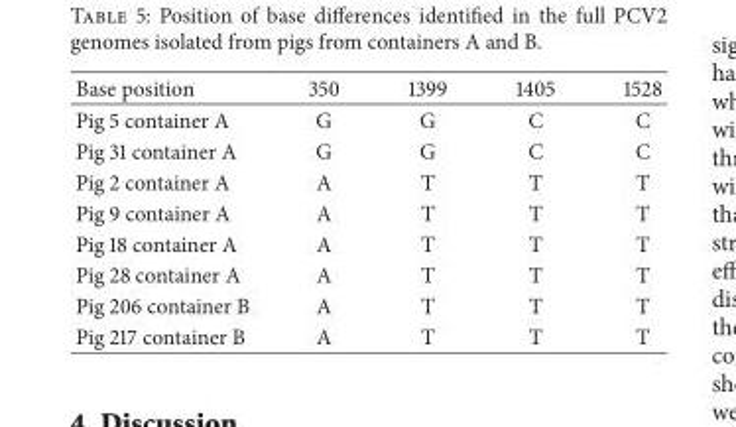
<table><thead><tr><td>Base position</td><td>350</td><td>1399</td><td>1405</td><td>1528</td></tr></thead><tbody><tr><td>Pig 5 container A</td><td>G</td><td>G</td><td>C</td><td>C</td></tr><tr><td>Pig 31 container A</td><td>G</td><td>G</td><td>C</td><td>C</td></tr><tr><td>Pig 2 container A</td><td>A</td><td>T</td><td>T</td><td>T</td></tr><tr><td>Pig 9 container A</td><td>A</td><td>T</td><td>T</td><td>T</td></tr><tr><td>Pig 18 container A</td><td>A</td><td>T</td><td>T</td><td>T</td></tr><tr><td>Pig 28 container A</td><td>A</td><td>T</td><td>T</td><td>T</td></tr><tr><td>Pig 206 container B</td><td>A</td><td>T</td><td>T</td><td>T</td></tr><tr><td>Pig 217 container B</td><td>A</td><td>T</td><td>T</td><td>T</td></tr></tbody></table>